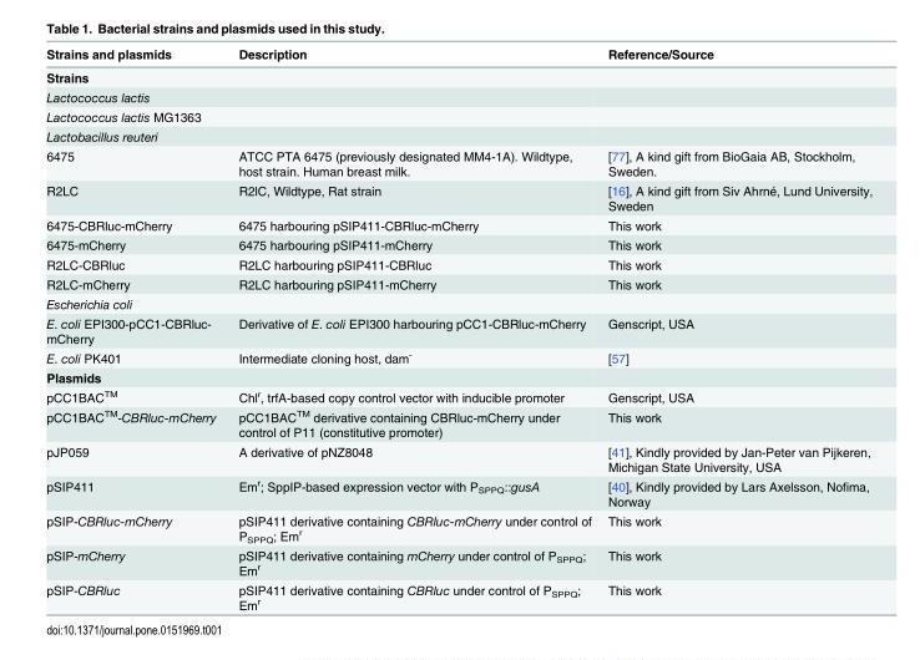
<table><thead><tr><td>Strains and plasmids</td><td>Description</td><td>Reference/Source</td></tr></thead><tbody><tr><td colspan="3">Strains</td></tr><tr><td colspan="3">Lactococcus lactis</td></tr><tr><td colspan="3">Lactococcus lactis MG1363</td></tr><tr><td colspan="3">Lactobacillus reuteri</td></tr><tr><td>6475</td><td>ATCC PTA 6475 (previously designated MM4-1A). Wildtype, host strain. Human breast milk.</td><td>[77], A kind gift from BioGaia AB, Stockholm, Sweden.</td></tr><tr><td>R2LC</td><td>R2lC, Wildtype, Rat strain</td><td>[16], A kind gift from Siv Ahrné, Lund University, Sweden</td></tr><tr><td>6475-CBRluc-mCherry</td><td>6475 harbouring pSIP411-CBRluc-mCherry</td><td>This work</td></tr><tr><td>6475-mCherry</td><td>6475 harbouring pSIP411-mCherry</td><td>This work</td></tr><tr><td>R2LC-CBRluc</td><td>R2LC harbouring pSIP411-CBRluc</td><td>This work</td></tr><tr><td>R2LC-mCherry</td><td>R2LC harbouring pSIP411-mCherry</td><td>This work</td></tr><tr><td colspan="3">Escherichia coli</td></tr><tr><td>E. coli EPI300-pCC1-CBRluc- mCherry</td><td>Derivative of E. coli EPI300 harbouring pCC1-CBRluc-mCherry</td><td>Genscript, USA</td></tr><tr><td>E. coli PK401</td><td>Intermediate cloning host, dam<sup>-</sup></td><td>[57]</td></tr><tr><td colspan="3">Plasmids</td></tr><tr><td>pCC1BAC<sup>TM</sup></td><td>Chl<sup>r</sup>, trfA-based copy control vector with inducible promoter</td><td>Genscript, USA</td></tr><tr><td>pCC1BAC<sup>TM</sup>-CBRluc-mCherry</td><td>pCC1BAC<sup>TM</sup> derivative containing CBRluc-mCherry under control of P11 (constitutive promoter)</td><td>This work</td></tr><tr><td>pJP059</td><td>A derivative of pNZ8048</td><td>[41], Kindly provided by Jan-Peter van Pijkeren, Michigan State University, USA</td></tr><tr><td>pSIP411</td><td>Em<sup>r</sup>; SppIP-based expression vector with P<sub>SPPQ</sub>::gusA</td><td>[40], Kindly provided by Lars Axelsson, Nofima, Norway</td></tr><tr><td>pSIP-CBRluc-mCherry</td><td>pSIP411 derivative containing CBRluc-mCherry under control of P<sub>SPPQ</sub>; Em<sup>r</sup></td><td>This work</td></tr><tr><td>pSIP-mCherry</td><td>pSIP411 derivative containing mCherry under control of P<sub>SPPQ</sub>; Em<sup>r</sup></td><td>This work</td></tr><tr><td>pSIP-CBRluc</td><td>pSIP411 derivative containing CBRluc under control of P<sub>SPPQ</sub>; Em<sup>r</sup></td><td>This work</td></tr></tbody></table>